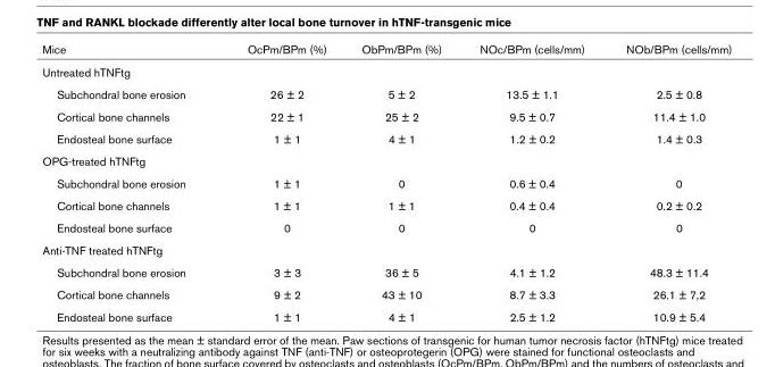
<table><thead><tr><td>Mice</td><td>OcPm/BPm (%)</td><td>ObPm/BPm (%)</td><td>NOc/BPm (cells/mm)</td><td>NOb/BPm (cells/mm)</td></tr></thead><tbody><tr><td colspan="5">Untreated hTNFtg</td></tr><tr><td>Subchondral bone erosion</td><td>26 ± 2</td><td>5 ± 2</td><td>13.5 ± 1.1</td><td>2.5 ± 0.8</td></tr><tr><td>Cortical bone channels</td><td>22 ± 1</td><td>25 ± 2</td><td>9.5 ± 0.7</td><td>11.4 ± 1.0</td></tr><tr><td>Endosteal bone surface</td><td>1 ± 1</td><td>4 ± 1</td><td>1.2 ± 0.2</td><td>1.4 ± 0.3</td></tr><tr><td colspan="5">OPG-treated hTNFtg</td></tr><tr><td>Subchondral bone erosion</td><td>1 ± 1</td><td>0</td><td>0.6 ± 0.4</td><td>0</td></tr><tr><td>Cortical bone channels</td><td>1 ± 1</td><td>1 ± 1</td><td>0.4 ± 0.4</td><td>0.2 ± 0.2</td></tr><tr><td>Endosteal bone surface</td><td>0</td><td>0</td><td>0</td><td>0</td></tr><tr><td colspan="5">Anti-TNF treated hTNFtg</td></tr><tr><td>Subchondral bone erosion</td><td>3 ± 3</td><td>36 ± 5</td><td>4.1 ± 1.2</td><td>48.3 ± 11.4</td></tr><tr><td>Cortical bone channels</td><td>9 ± 2</td><td>43 ± 10</td><td>8.7 ± 3.3</td><td>26.1 ± 7,2</td></tr><tr><td>Endosteal bone surface</td><td>1 ± 1</td><td>4 ± 1</td><td>2.5 ± 1.2</td><td>10.9 ± 5.4</td></tr></tbody></table>